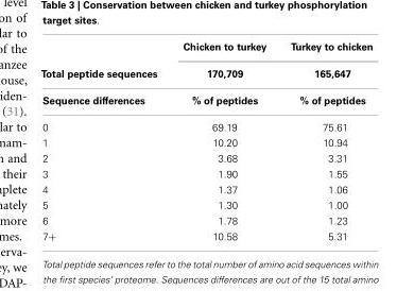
<table><thead><tr><td rowspan="3">Total peptide sequences Sequence differences</td><td rowspan="3">Chicken to turkey 170,709 % of peptides</td><td rowspan="3">Turkey to chicken 165,647 % of peptides</td></tr><tr></tr><tr></tr></thead><tbody><tr><td>0</td><td>69.19</td><td>75.61</td></tr><tr><td>1</td><td>10.20</td><td>10.94</td></tr><tr><td>2</td><td>3.68</td><td>3.31</td></tr><tr><td>3</td><td>1.90</td><td>1.55</td></tr><tr><td>4</td><td>1.37</td><td>1.06</td></tr><tr><td>5</td><td>1.30</td><td>1.00</td></tr><tr><td>6</td><td>1.78</td><td>1.23</td></tr><tr><td>7+</td><td>10.58</td><td>5.31</td></tr></tbody></table>